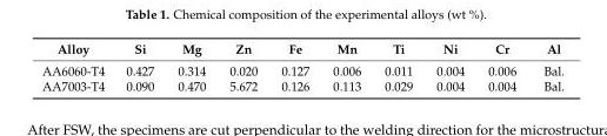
<table><thead><tr><td>Alloy</td><td>Si</td><td>Mg</td><td>Zn</td><td>Fe</td><td>Mn</td><td>Ti</td><td>Ni</td><td>Cr</td><td>Al</td></tr></thead><tbody><tr><td>AA6060-T4</td><td>0.427</td><td>0.314</td><td>0.020</td><td>0.127</td><td>0.006</td><td>0.011</td><td>0.004</td><td>0.006</td><td>Bal.</td></tr><tr><td>AA7003-T4</td><td>0.090</td><td>0.470</td><td>5.672</td><td>0.126</td><td>0.113</td><td>0.029</td><td>0.004</td><td>0.004</td><td>Bal.</td></tr></tbody></table>